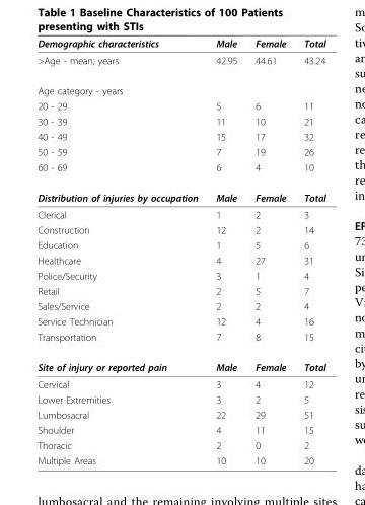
<table><thead><tr><td>Demographic characteristics</td><td>Male</td><td>Female</td><td>Total</td></tr></thead><tbody><tr><td>&gt;Age - mean, years</td><td>42.95</td><td>44.61</td><td>43.24</td></tr><tr><td colspan="4">Age category - years</td></tr><tr><td>20 - 29</td><td>5</td><td>6</td><td>11</td></tr><tr><td>30 - 39</td><td>11</td><td>10</td><td>21</td></tr><tr><td>40 - 49</td><td>15</td><td>17</td><td>32</td></tr><tr><td>50 - 59</td><td>7</td><td>19</td><td>26</td></tr><tr><td>60 - 69</td><td>6</td><td>4</td><td>10</td></tr><tr><td>Distribution of injuries by occupation</td><td>Male</td><td>Female</td><td>Total</td></tr><tr><td>Clerical</td><td>1</td><td>2</td><td>3</td></tr><tr><td>Construction</td><td>12</td><td>2</td><td>14</td></tr><tr><td>Education</td><td>1</td><td>5</td><td>6</td></tr><tr><td>Healthcare</td><td>4</td><td>27</td><td>31</td></tr><tr><td>Police/Security</td><td>3</td><td>1</td><td>4</td></tr><tr><td>Retail</td><td>2</td><td>5</td><td>7</td></tr><tr><td>Sales/Service</td><td>2</td><td>2</td><td>4</td></tr><tr><td>Service Technician</td><td>12</td><td>4</td><td>16</td></tr><tr><td>Transportation</td><td>7</td><td>8</td><td>15</td></tr><tr><td>Site of injury or reported pain</td><td>Male</td><td>Female</td><td>Total</td></tr><tr><td>Cervical</td><td>3</td><td>4</td><td>12</td></tr><tr><td>Lower Extremities</td><td>3</td><td>2</td><td>5</td></tr><tr><td>Lumbosacral</td><td>22</td><td>29</td><td>51</td></tr><tr><td>Shoulder</td><td>4</td><td>11</td><td>15</td></tr><tr><td>Thoracic</td><td>2</td><td>0</td><td>2</td></tr><tr><td>Multiple Areas</td><td>10</td><td>10</td><td>20</td></tr></tbody></table>